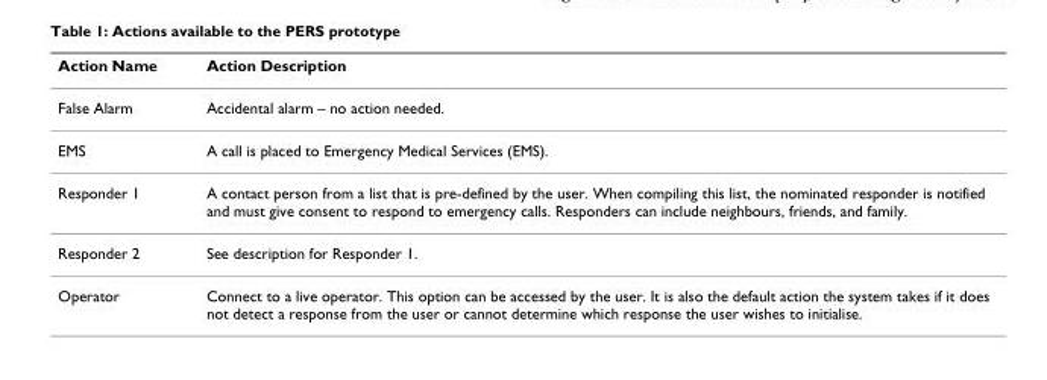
<table><thead><tr><td>Action Name</td><td>Action Description</td></tr></thead><tbody><tr><td>False Alarm</td><td>Accidental alarm – no action needed.</td></tr><tr><td>EMS</td><td>A call is placed to Emergency Medical Services (EMS).</td></tr><tr><td>Responder 1</td><td>A contact person from a list that is pre-defined by the user. When compiling this list, the nominated responder is notified and must give consent to respond to emergency calls. Responders can include neighbours, friends, and family.</td></tr><tr><td>Responder 2</td><td>See description for Responder 1.</td></tr><tr><td>Operator</td><td>Connect to a live operator. This option can be accessed by the user. It is also the default action the system takes if it does not detect a response from the user or cannot determine which response the user wishes to initialise.</td></tr></tbody></table>